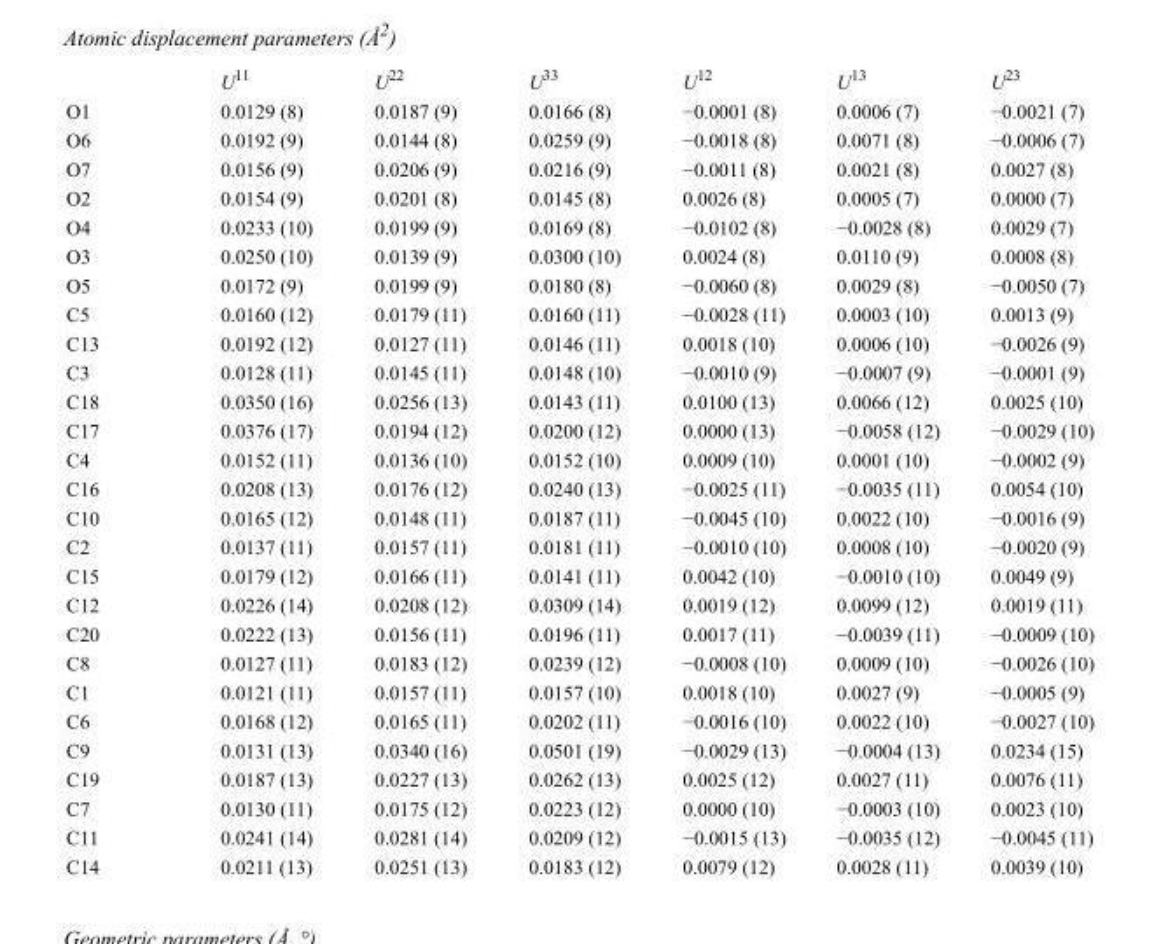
<table><thead><tr><td></td><td>U<sup>11</sup></td><td>U<sup>22</sup></td><td>U<sup>33</sup></td><td>U<sup>12</sup></td><td>U<sup>13</sup></td><td>U<sup>23</sup></td></tr></thead><tbody><tr><td>O1</td><td>0.0129 (8)</td><td>0.0187 (9)</td><td>0.0166 (8)</td><td>−0.0001 (8)</td><td>0.0006 (7)</td><td>−0.0021 (7)</td></tr><tr><td>O6</td><td>0.0192 (9)</td><td>0.0144 (8)</td><td>0.0259 (9)</td><td>−0.0018 (8)</td><td>0.0071 (8)</td><td>−0.0006 (7)</td></tr><tr><td>O7</td><td>0.0156 (9)</td><td>0.0206 (9)</td><td>0.0216 (9)</td><td>−0.0011 (8)</td><td>0.0021 (8)</td><td>0.0027 (8)</td></tr><tr><td>O2</td><td>0.0154 (9)</td><td>0.0201 (8)</td><td>0.0145 (8)</td><td>0.0026 (8)</td><td>0.0005 (7)</td><td>0.0000 (7)</td></tr><tr><td>O4</td><td>0.0233 (10)</td><td>0.0199 (9)</td><td>0.0169 (8)</td><td>−0.0102 (8)</td><td>−0.0028 (8)</td><td>0.0029 (7)</td></tr><tr><td>O3</td><td>0.0250 (10)</td><td>0.0139 (9)</td><td>0.0300 (10)</td><td>0.0024 (8)</td><td>0.0110 (9)</td><td>0.0008 (8)</td></tr><tr><td>O5</td><td>0.0172 (9)</td><td>0.0199 (9)</td><td>0.0180 (8)</td><td>−0.0060 (8)</td><td>0.0029 (8)</td><td>−0.0050 (7)</td></tr><tr><td>C5</td><td>0.0160 (12)</td><td>0.0179 (11)</td><td>0.0160 (11)</td><td>−0.0028 (11)</td><td>0.0003 (10)</td><td>0.0013 (9)</td></tr><tr><td>C13</td><td>0.0192 (12)</td><td>0.0127 (11)</td><td>0.0146 (11)</td><td>0.0018 (10)</td><td>0.0006 (10)</td><td>−0.0026 (9)</td></tr><tr><td>C3</td><td>0.0128 (11)</td><td>0.0145 (11)</td><td>0.0148 (10)</td><td>−0.0010 (9)</td><td>−0.0007 (9)</td><td>−0.0001 (9)</td></tr><tr><td>C18</td><td>0.0350 (16)</td><td>0.0256 (13)</td><td>0.0143 (11)</td><td>0.0100 (13)</td><td>0.0066 (12)</td><td>0.0025 (10)</td></tr><tr><td>C17</td><td>0.0376 (17)</td><td>0.0194 (12)</td><td>0.0200 (12)</td><td>0.0000 (13)</td><td>−0.0058 (12)</td><td>−0.0029 (10)</td></tr><tr><td>C4</td><td>0.0152 (11)</td><td>0.0136 (10)</td><td>0.0152 (10)</td><td>0.0009 (10)</td><td>0.0001 (10)</td><td>−0.0002 (9)</td></tr><tr><td>C16</td><td>0.0208 (13)</td><td>0.0176 (12)</td><td>0.0240 (13)</td><td>−0.0025 (11)</td><td>−0.0035 (11)</td><td>0.0054 (10)</td></tr><tr><td>C10</td><td>0.0165 (12)</td><td>0.0148 (11)</td><td>0.0187 (11)</td><td>−0.0045 (10)</td><td>0.0022 (10)</td><td>−0.0016 (9)</td></tr><tr><td>C2</td><td>0.0137 (11)</td><td>0.0157 (11)</td><td>0.0181 (11)</td><td>−0.0010 (10)</td><td>0.0008 (10)</td><td>−0.0020 (9)</td></tr><tr><td>C15</td><td>0.0179 (12)</td><td>0.0166 (11)</td><td>0.0141 (11)</td><td>0.0042 (10)</td><td>−0.0010 (10)</td><td>0.0049 (9)</td></tr><tr><td>C12</td><td>0.0226 (14)</td><td>0.0208 (12)</td><td>0.0309 (14)</td><td>0.0019 (12)</td><td>0.0099 (12)</td><td>0.0019 (11)</td></tr><tr><td>C20</td><td>0.0222 (13)</td><td>0.0156 (11)</td><td>0.0196 (11)</td><td>0.0017 (11)</td><td>−0.0039 (11)</td><td>−0.0009 (10)</td></tr><tr><td>C8</td><td>0.0127 (11)</td><td>0.0183 (12)</td><td>0.0239 (12)</td><td>−0.0008 (10)</td><td>0.0009 (10)</td><td>−0.0026 (10)</td></tr><tr><td>C1</td><td>0.0121 (11)</td><td>0.0157 (11)</td><td>0.0157 (10)</td><td>0.0018 (10)</td><td>0.0027 (9)</td><td>−0.0005 (9)</td></tr><tr><td>C6</td><td>0.0168 (12)</td><td>0.0165 (11)</td><td>0.0202 (11)</td><td>−0.0016 (10)</td><td>0.0022 (10)</td><td>−0.0027 (10)</td></tr><tr><td>C9</td><td>0.0131 (13)</td><td>0.0340 (16)</td><td>0.0501 (19)</td><td>−0.0029 (13)</td><td>−0.0004 (13)</td><td>0.0234 (15)</td></tr><tr><td>C19</td><td>0.0187 (13)</td><td>0.0227 (13)</td><td>0.0262 (13)</td><td>0.0025 (12)</td><td>0.0027 (11)</td><td>0.0076 (11)</td></tr><tr><td>C7</td><td>0.0130 (11)</td><td>0.0175 (12)</td><td>0.0223 (12)</td><td>0.0000 (10)</td><td>−0.0003 (10)</td><td>0.0023 (10)</td></tr><tr><td>C11</td><td>0.0241 (14)</td><td>0.0281 (14)</td><td>0.0209 (12)</td><td>−0.0015 (13)</td><td>−0.0035 (12)</td><td>−0.0045 (11)</td></tr><tr><td>C14</td><td>0.0211 (13)</td><td>0.0251 (13)</td><td>0.0183 (12)</td><td>0.0079 (12)</td><td>0.0028 (11)</td><td>0.0039 (10)</td></tr></tbody></table>